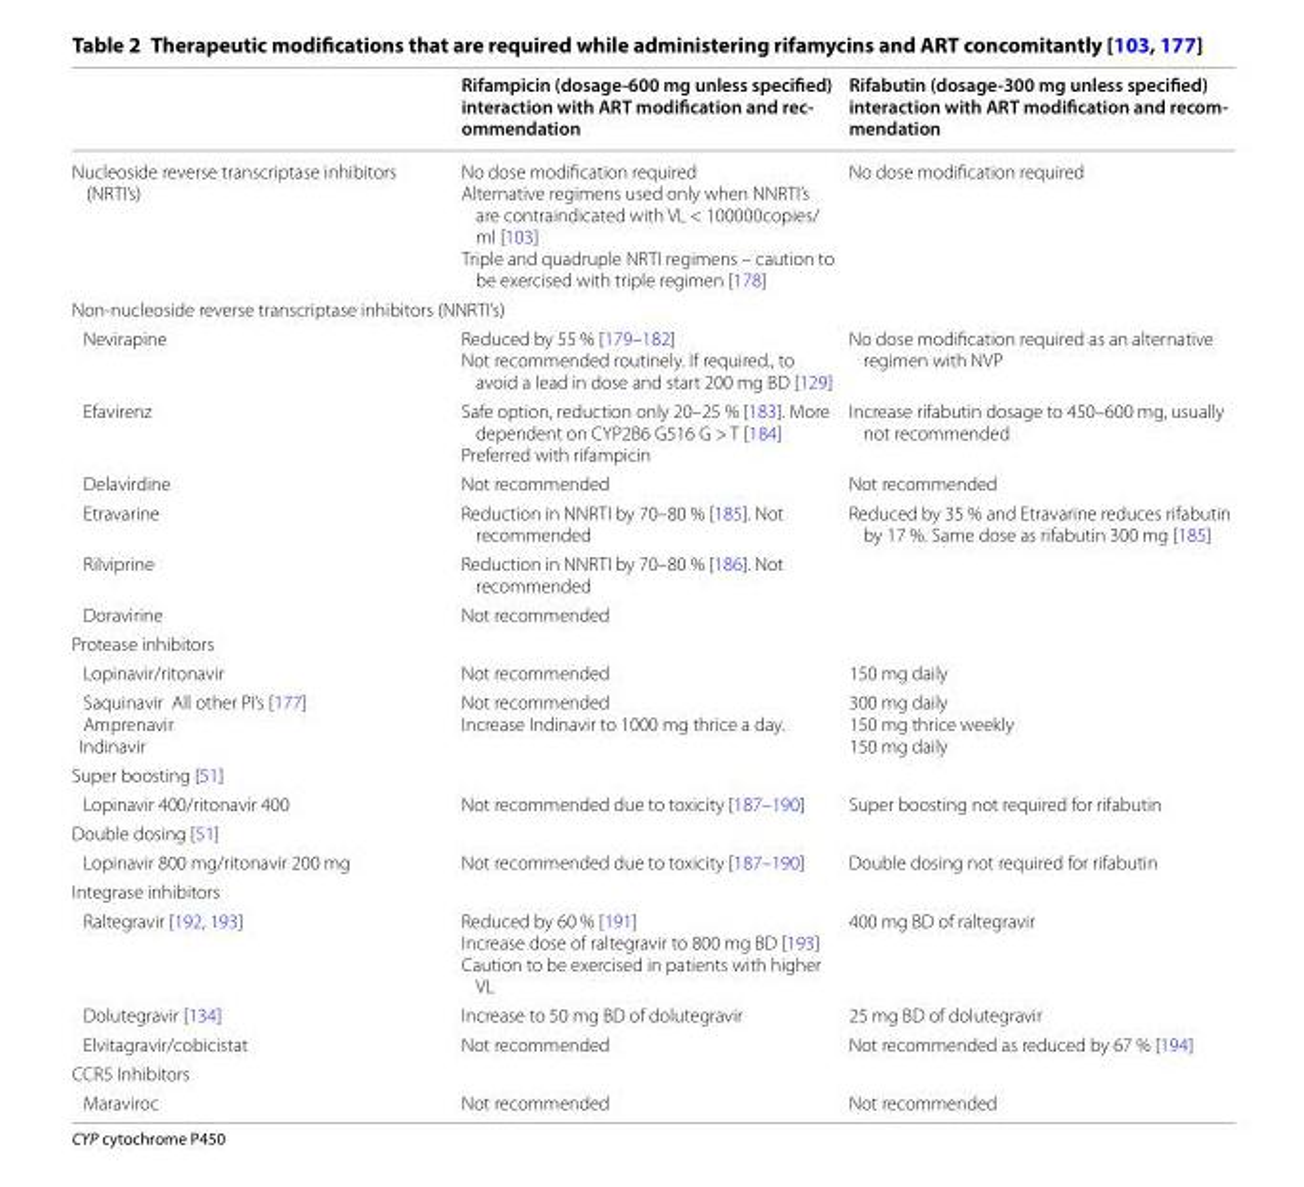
<table><thead><tr><td></td><td>Rifampicin (dosage-600 mg unless specified) interaction with ART modification and rec- ommendation</td><td>Rifabutin (dosage-300 mg unless specified) interaction with ART modification and recom- mendation</td></tr></thead><tbody><tr><td>Nucleoside reverse transcriptase inhibitors (NRTI’s)</td><td>No dose modification required Alternative regimens used only when NNRTI’s are contraindicated with VL &lt; 100000copies/ ml [103] Triple and quadruple NRTI regimens – caution to be exercised with triple regimen [178]</td><td>No dose modification required</td></tr><tr><td colspan="3">Non-nucleoside reverse transcriptase inhibitors (NNRTI’s)</td></tr><tr><td>Nevirapine</td><td>Reduced by 55 % [179–182] Not recommended routinely. If required., to avoid a lead in dose and start 200 mg BD [129]</td><td>No dose modification required as an alternative regimen with NVP</td></tr><tr><td>Efavirenz</td><td>Safe option, reduction only 20–25 % [183]. More dependent on CYP2B6 G516 G &gt; T [184] Preferred with rifampicin</td><td>Increase rifabutin dosage to 450–600 mg, usually not recommended</td></tr><tr><td>Delavirdine</td><td>Not recommended</td><td>Not recommended</td></tr><tr><td>Etravarine</td><td>Reduction in NNRTI by 70–80 % [185]. Not recommended</td><td>Reduced by 35 % and Etravarine reduces rifabutin by 17 %. Same dose as rifabutin 300 mg [185]</td></tr><tr><td>Rilviprine</td><td>Reduction in NNRTI by 70–80 % [186]. Not recommended</td><td></td></tr><tr><td>Doravirine</td><td>Not recommended</td><td></td></tr><tr><td colspan="3">Protease inhibitors</td></tr><tr><td>Lopinavir/ritonavir</td><td>Not recommended</td><td>150 mg daily</td></tr><tr><td>Saquinavir All other PI’s [177] Amprenavir Indinavir</td><td>Not recommended Increase Indinavir to 1000 mg thrice a day.</td><td>300 mg daily 150 mg thrice weekly 150 mg daily</td></tr><tr><td colspan="3">Super boosting [51]</td></tr><tr><td>Lopinavir 400/ritonavir 400</td><td>Not recommended due to toxicity [187–190]</td><td>Super boosting not required for rifabutin</td></tr><tr><td colspan="3">Double dosing [51]</td></tr><tr><td>Lopinavir 800 mg/ritonavir 200 mg</td><td>Not recommended due to toxicity [187–190]</td><td>Double dosing not required for rifabutin</td></tr><tr><td colspan="3">Integrase inhibitors</td></tr><tr><td>Raltegravir [192, 193]</td><td>Reduced by 60 % [191] Increase dose of raltegravir to 800 mg BD [193] Caution to be exercised in patients with higher VL</td><td>400 mg BD of raltegravir</td></tr><tr><td>Dolutegravir [134]</td><td>Increase to 50 mg BD of dolutegravir</td><td>25 mg BD of dolutegravir</td></tr><tr><td>Elvitagravir/cobicistat</td><td>Not recommended</td><td>Not recommended as reduced by 67 % [194]</td></tr><tr><td colspan="3">CCR5 Inhibitors</td></tr><tr><td>Maraviroc</td><td>Not recommended</td><td>Not recommended</td></tr></tbody></table>